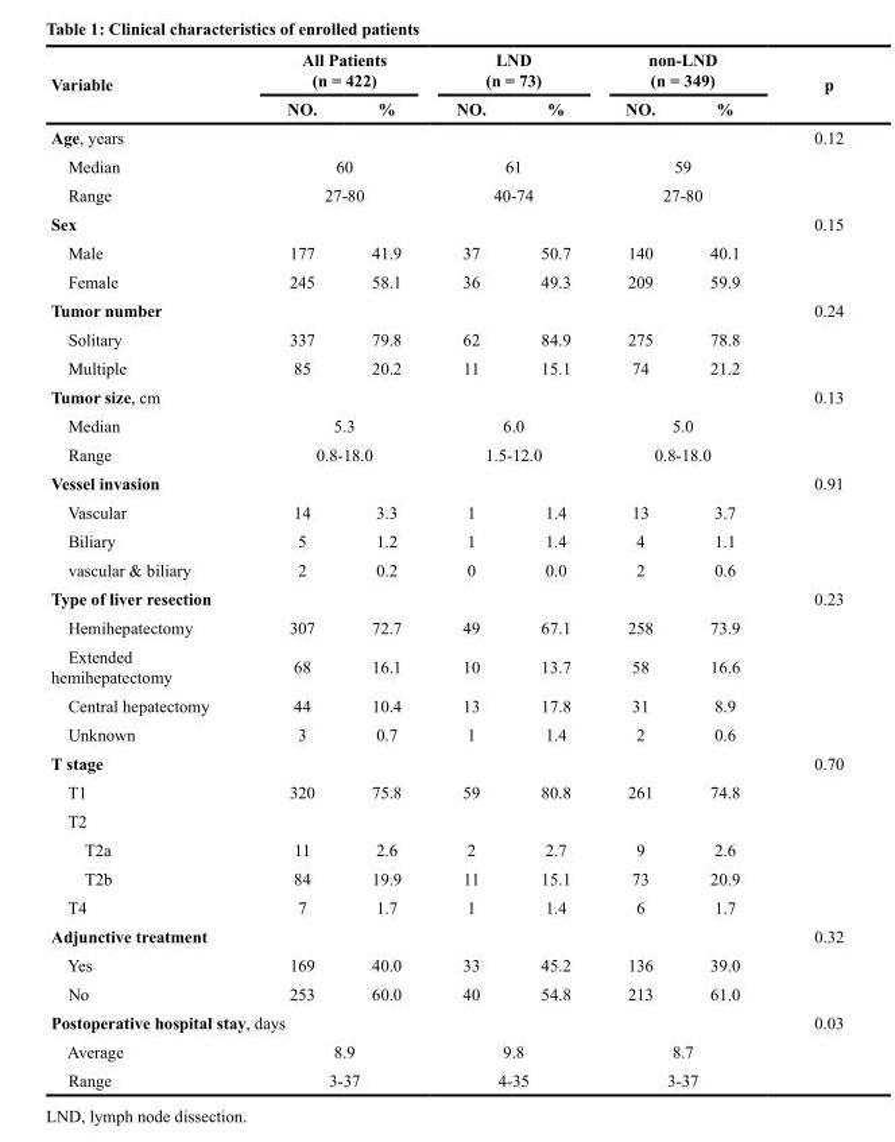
<table><thead><tr><td rowspan="2">Variable</td><td colspan="2">All Patients (n = 422)</td><td colspan="2">LND (n = 73)</td><td colspan="2">non-LND (n = 349)</td><td rowspan="2">p</td></tr><tr><td>NO.</td><td>%</td><td>NO.</td><td>%</td><td>NO.</td><td>%</td></tr></thead><tbody><tr><td colspan="7">Age, years</td><td>0.12</td></tr><tr><td>Median</td><td colspan="2">60</td><td colspan="2">61</td><td colspan="2">59</td><td></td></tr><tr><td>Range</td><td colspan="2">27-80</td><td colspan="2">40-74</td><td colspan="2">27-80</td><td></td></tr><tr><td colspan="7">Sex</td><td>0.15</td></tr><tr><td>Male</td><td>177</td><td>41.9</td><td>37</td><td>50.7</td><td>140</td><td>40.1</td><td></td></tr><tr><td>Female</td><td>245</td><td>58.1</td><td>36</td><td>49.3</td><td>209</td><td>59.9</td><td></td></tr><tr><td colspan="7">Tumor number</td><td>0.24</td></tr><tr><td>Solitary</td><td>337</td><td>79.8</td><td>62</td><td>84.9</td><td>275</td><td>78.8</td><td></td></tr><tr><td>Multiple</td><td>85</td><td>20.2</td><td>11</td><td>15.1</td><td>74</td><td>21.2</td><td></td></tr><tr><td colspan="7">Tumor size, cm</td><td>0.13</td></tr><tr><td>Median</td><td colspan="2">5.3</td><td colspan="2">6.0</td><td colspan="2">5.0</td><td></td></tr><tr><td>Range</td><td colspan="2">0.8-18.0</td><td colspan="2">1.5-12.0</td><td colspan="2">0.8-18.0</td><td></td></tr><tr><td colspan="7">Vessel invasion</td><td>0.91</td></tr><tr><td>Vascular</td><td>14</td><td>3.3</td><td>1</td><td>1.4</td><td>13</td><td>3.7</td><td></td></tr><tr><td>Biliary</td><td>5</td><td>1.2</td><td>1</td><td>1.4</td><td>4</td><td>1.1</td><td></td></tr><tr><td>vascular &amp; biliary</td><td>2</td><td>0.2</td><td>0</td><td>0.0</td><td>2</td><td>0.6</td><td></td></tr><tr><td colspan="7">Type of liver resection</td><td>0.23</td></tr><tr><td>Hemihepatectomy</td><td>307</td><td>72.7</td><td>49</td><td>67.1</td><td>258</td><td>73.9</td><td></td></tr><tr><td>Extended hemihepatectomy</td><td>68</td><td>16.1</td><td>10</td><td>13.7</td><td>58</td><td>16.6</td><td></td></tr><tr><td>Central hepatectomy</td><td>44</td><td>10.4</td><td>13</td><td>17.8</td><td>31</td><td>8.9</td><td></td></tr><tr><td>Unknown</td><td>3</td><td>0.7</td><td>1</td><td>1.4</td><td>2</td><td>0.6</td><td></td></tr><tr><td colspan="7">T stage</td><td>0.70</td></tr><tr><td>T1</td><td>320</td><td>75.8</td><td>59</td><td>80.8</td><td>261</td><td>74.8</td><td></td></tr><tr><td colspan="8">T2</td></tr><tr><td>T2a</td><td>11</td><td>2.6</td><td>2</td><td>2.7</td><td>9</td><td>2.6</td><td></td></tr><tr><td>T2b</td><td>84</td><td>19.9</td><td>11</td><td>15.1</td><td>73</td><td>20.9</td><td></td></tr><tr><td>T4</td><td>7</td><td>1.7</td><td>1</td><td>1.4</td><td>6</td><td>1.7</td><td></td></tr><tr><td colspan="7">Adjunctive treatment</td><td>0.32</td></tr><tr><td>Yes</td><td>169</td><td>40.0</td><td>33</td><td>45.2</td><td>136</td><td>39.0</td><td></td></tr><tr><td>No</td><td>253</td><td>60.0</td><td>40</td><td>54.8</td><td>213</td><td>61.0</td><td></td></tr><tr><td colspan="7">Postoperative hospital stay, days</td><td>0.03</td></tr><tr><td>Average</td><td colspan="2">8.9</td><td colspan="2">9.8</td><td colspan="2">8.7</td><td></td></tr><tr><td>Range</td><td colspan="2">3-37</td><td colspan="2">4-35</td><td colspan="2">3-37</td><td></td></tr></tbody></table>